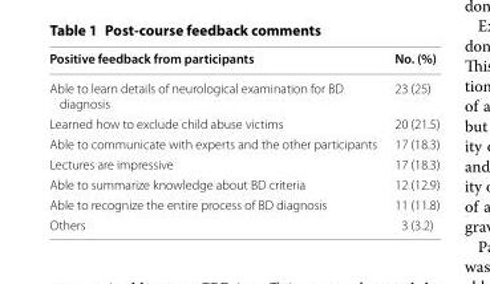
<table><thead><tr><td>Positive feedback from participants</td><td>No. (%)</td></tr></thead><tbody><tr><td>Able to learn details of neurological examination for BD diagnosis</td><td>23 (25)</td></tr><tr><td>Learned how to exclude child abuse victims</td><td>20 (21.5)</td></tr><tr><td>Able to communicate with experts and the other participants</td><td>17 (18.3)</td></tr><tr><td>Lectures are impressive</td><td>17 (18.3)</td></tr><tr><td>Able to summarize knowledge about BD criteria</td><td>12 (12.9)</td></tr><tr><td>Able to recognize the entire process of BD diagnosis</td><td>11 (11.8)</td></tr><tr><td>Others</td><td>3 (3.2)</td></tr></tbody></table>